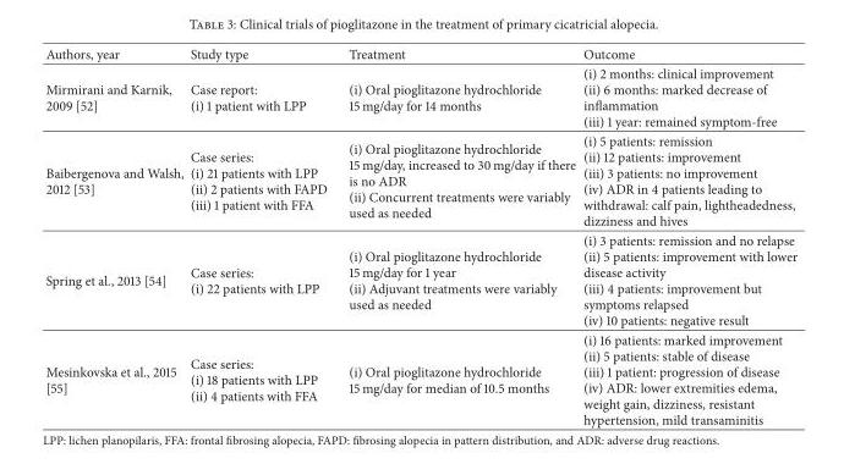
<table><thead><tr><td>Authors, year</td><td>Study type</td><td>Treatment</td><td>Outcome</td></tr></thead><tbody><tr><td>Mirmirani and Karnik, 2009 [52]</td><td>Case report: (i) 1 patient with LPP</td><td>(i) Oral pioglitazone hydrochloride 15 mg/day for 14 months</td><td>(i) 2 months: clinical improvement (ii) 6 months: marked decrease of inflammation (iii) 1 year: remained symptom-free</td></tr><tr><td>Baibergenova and Walsh, 2012 [53]</td><td>Case series: (i) 21 patients with LPP (ii) 2 patients with FAPD (iii) 1 patient with FFA</td><td>(i) Oral pioglitazone hydrochloride 15 mg/day, increased to 30 mg/day if there is no ADR (ii) Concurrent treatments were variably used as needed</td><td>(i) 5 patients: remission (ii) 12 patients: improvement (iii) 3 patients: no improvement (iv) ADR in 4 patients leading to withdrawal: calf pain, lightheadedness, dizziness and hives</td></tr><tr><td>Spring et al., 2013 [54]</td><td>Case series: (i) 22 patients with LPP</td><td>(i) Oral pioglitazone hydrochloride 15 mg/day for 1 year (ii) Adjuvant treatments were variably used as needed</td><td>(i) 3 patients: remission and no relapse (ii) 5 patients: improvement with lower disease activity (iii) 4 patients: improvement but symptoms relapsed (iv) 10 patients: negative result</td></tr><tr><td>Mesinkovska et al., 2015 [55]</td><td>Case series: (i) 18 patients with LPP (ii) 4 patients with FFA</td><td>(i) Oral pioglitazone hydrochloride 15 mg/day for median of 10.5 months</td><td>(i) 16 patients: marked improvement (ii) 5 patients: stable of disease (iii) 1 patient: progression of disease (iv) ADR: lower extremities edema, weight gain, dizziness, resistant hypertension, mild transaminitis</td></tr></tbody></table>